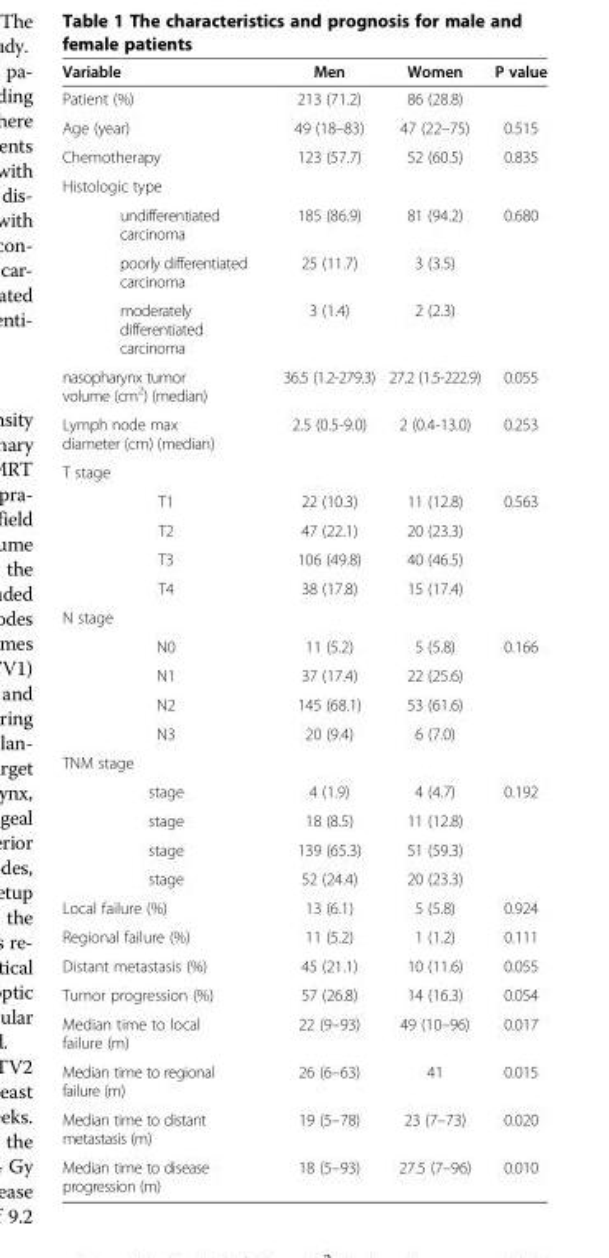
<table><thead><tr><td>Variable</td><td>Men</td><td>Women</td><td>P value</td></tr></thead><tbody><tr><td>Patient (%)</td><td>213 (71.2)</td><td>86 (28.8)</td><td></td></tr><tr><td>Age (year)</td><td>49 (18–83)</td><td>47 (22–75)</td><td>0.515</td></tr><tr><td>Chemotherapy</td><td>123 (57.7)</td><td>52 (60.5)</td><td>0.835</td></tr><tr><td colspan="4">Histologic type</td></tr><tr><td>undifferentiated carcinoma</td><td>185 (86.9)</td><td>81 (94.2)</td><td rowspan="3">0.680</td></tr><tr><td>poorly differentiated carcinoma</td><td>25 (11.7)</td><td>3 (3.5)</td></tr><tr><td>moderately differentiated carcinoma</td><td>3 (1.4)</td><td>2 (2.3)</td></tr><tr><td>nasopharynx tumor volume (cm<sup>2</sup>) (median)</td><td>36.5 (1.2-279.3)</td><td>27.2 (1.5-222.9)</td><td>0.055</td></tr><tr><td>Lymph node max diameter (cm) (median)</td><td>2.5 (0.5-9.0)</td><td>2 (0.4-13.0)</td><td>0.253</td></tr><tr><td colspan="4">T stage</td></tr><tr><td>T1</td><td>22 (10.3)</td><td>11 (12.8)</td><td rowspan="4">0.563</td></tr><tr><td>T2</td><td>47 (22.1)</td><td>20 (23.3)</td></tr><tr><td>T3</td><td>106 (49.8)</td><td>40 (46.5)</td></tr><tr><td>T4</td><td>38 (17.8)</td><td>15 (17.4)</td></tr><tr><td colspan="4">N stage</td></tr><tr><td>N0</td><td>11 (5.2)</td><td>5 (5.8)</td><td rowspan="4">0.166</td></tr><tr><td>N1</td><td>37 (17.4)</td><td>22 (25.6)</td></tr><tr><td>N2</td><td>145 (68.1)</td><td>53 (61.6)</td></tr><tr><td>N3</td><td>20 (9.4)</td><td>6 (7.0)</td></tr><tr><td colspan="4">TNM stage</td></tr><tr><td>stage</td><td>4 (1.9)</td><td>4 (4.7)</td><td rowspan="4">0.192</td></tr><tr><td>stage</td><td>18 (8.5)</td><td>11 (12.8)</td></tr><tr><td>stage</td><td>139 (65.3)</td><td>51 (59.3)</td></tr><tr><td>stage</td><td>52 (24.4)</td><td>20 (23.3)</td></tr><tr><td>Local failure (%)</td><td>13 (6.1)</td><td>5 (5.8)</td><td>0.924</td></tr><tr><td>Regional failure (%)</td><td>11 (5.2)</td><td>1 (1.2)</td><td>0.111</td></tr><tr><td>Distant metastasis (%)</td><td>45 (21.1)</td><td>10 (11.6)</td><td>0.055</td></tr><tr><td>Tumor progression (%)</td><td>57 (26.8)</td><td>14 (16.3)</td><td>0.054</td></tr><tr><td>Median time to local failure (m)</td><td>22 (9–93)</td><td>49 (10–96)</td><td>0.017</td></tr><tr><td>Median time to regional failure (m)</td><td>26 (6–63)</td><td>41</td><td>0.015</td></tr><tr><td>Median time to distant metastasis (m)</td><td>19 (5–78)</td><td>23 (7–73)</td><td>0.020</td></tr><tr><td>Median time to disease progression (m)</td><td>18 (5–93)</td><td>27.5 (7–96)</td><td>0.010</td></tr></tbody></table>